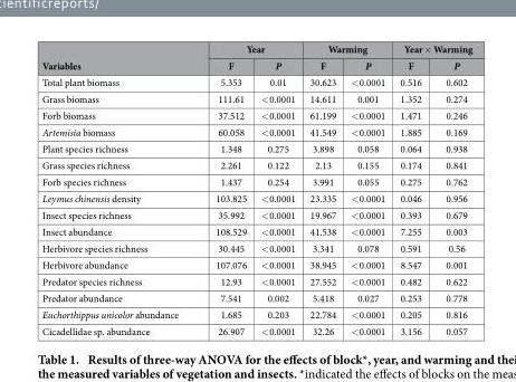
<table><thead><tr><td rowspan="2">Variables</td><td colspan="2">Year</td><td colspan="2">Warming</td><td colspan="2">Year × Warming</td></tr><tr><td>F</td><td>P</td><td>F</td><td>P</td><td>F</td><td>P</td></tr></thead><tbody><tr><td>Total plant biomass</td><td>5.353</td><td>0.01</td><td>30.623</td><td>&lt; 0.0001</td><td>0.516</td><td>0.602</td></tr><tr><td>Grass biomass</td><td>111.61</td><td>&lt; 0.0001</td><td>14.611</td><td>0.001</td><td>1.352</td><td>0.274</td></tr><tr><td>Forb biomass</td><td>37.512</td><td>&lt; 0.0001</td><td>61.199</td><td>&lt; 0.0001</td><td>1.471</td><td>0.246</td></tr><tr><td>Artemisia biomass</td><td>60.058</td><td>&lt; 0.0001</td><td>41.549</td><td>&lt; 0.0001</td><td>1.885</td><td>0.169</td></tr><tr><td>Plant species richness</td><td>1.348</td><td>0.275</td><td>3.898</td><td>0.058</td><td>0.064</td><td>0.938</td></tr><tr><td>Grass species richness</td><td>2.261</td><td>0.122</td><td>2.13</td><td>0.155</td><td>0.174</td><td>0.841</td></tr><tr><td>Forb species richness</td><td>1.437</td><td>0.254</td><td>3.991</td><td>0.055</td><td>0.275</td><td>0.762</td></tr><tr><td>Leymus chinensis density</td><td>103.825</td><td>&lt; 0.0001</td><td>23.335</td><td>&lt; 0.0001</td><td>0.046</td><td>0.956</td></tr><tr><td>Insect species richness</td><td>35.992</td><td>&lt; 0.0001</td><td>19.967</td><td>&lt; 0.0001</td><td>0.393</td><td>0.679</td></tr><tr><td>Insect abundance</td><td>108.529</td><td>&lt; 0.0001</td><td>41.538</td><td>&lt; 0.0001</td><td>7.255</td><td>0.003</td></tr><tr><td>Herbivore species richness</td><td>30.445</td><td>&lt; 0.0001</td><td>3.341</td><td>0.078</td><td>0.591</td><td>0.56</td></tr><tr><td>Herbivore abundance</td><td>107.076</td><td>&lt; 0.0001</td><td>38.945</td><td>&lt; 0.0001</td><td>8.547</td><td>0.001</td></tr><tr><td>Predator species richness</td><td>12.93</td><td>&lt; 0.0001</td><td>27.552</td><td>&lt; 0.0001</td><td>0.482</td><td>0.622</td></tr><tr><td>Predator abundance</td><td>7.541</td><td>0.002</td><td>5.418</td><td>0.027</td><td>0.253</td><td>0.778</td></tr><tr><td>Euchorthippus unicolor abundance</td><td>1.685</td><td>0.203</td><td>22.784</td><td>&lt; 0.0001</td><td>0.205</td><td>0.816</td></tr><tr><td>Cicadellidae sp. abundance</td><td>26.907</td><td>&lt; 0.0001</td><td>32.26</td><td>&lt; 0.0001</td><td>3.156</td><td>0.057</td></tr></tbody></table>